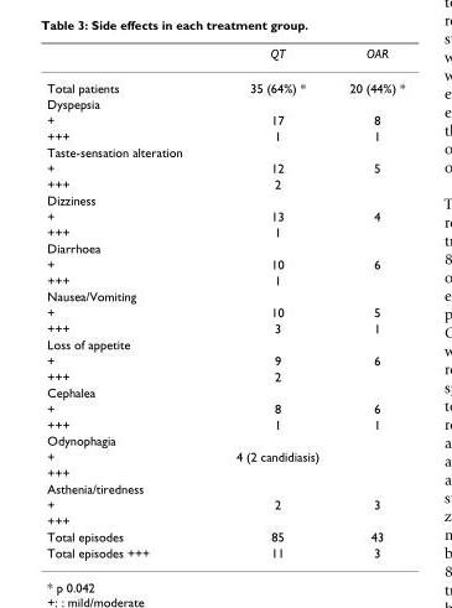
<table><thead><tr><td></td><td>QT</td><td>OAR</td></tr></thead><tbody><tr><td>Total patients</td><td>35 (64%) *</td><td>20 (44%) *</td></tr><tr><td colspan="3">Dyspepsia</td></tr><tr><td>+</td><td>17</td><td>8</td></tr><tr><td>+++</td><td>1</td><td>1</td></tr><tr><td colspan="3">Taste-sensation alteration</td></tr><tr><td>+</td><td>12</td><td>5</td></tr><tr><td>+++</td><td>2</td><td></td></tr><tr><td colspan="3">Dizziness</td></tr><tr><td>+</td><td>13</td><td>4</td></tr><tr><td>+++</td><td>1</td><td></td></tr><tr><td colspan="3">Diarrhoea</td></tr><tr><td>+</td><td>10</td><td>6</td></tr><tr><td>+++</td><td>1</td><td></td></tr><tr><td colspan="3">Nausea/Vomiting</td></tr><tr><td>+</td><td>10</td><td>5</td></tr><tr><td>+++</td><td>3</td><td>1</td></tr><tr><td colspan="3">Loss of appetite</td></tr><tr><td>+</td><td>9</td><td>6</td></tr><tr><td>+++</td><td>2</td><td></td></tr><tr><td colspan="3">Cephalea</td></tr><tr><td>+</td><td>8</td><td>6</td></tr><tr><td>+++</td><td>1</td><td>1</td></tr><tr><td colspan="3">Odynophagia</td></tr><tr><td>+</td><td>4 (2 candidiasis)</td><td></td></tr><tr><td colspan="3">+++</td></tr><tr><td colspan="3">Asthenia/tiredness</td></tr><tr><td>+</td><td>2</td><td>3</td></tr><tr><td colspan="3">+++</td></tr><tr><td>Total episodes</td><td>85</td><td>43</td></tr><tr><td>Total episodes +++</td><td>11</td><td>3</td></tr></tbody></table>